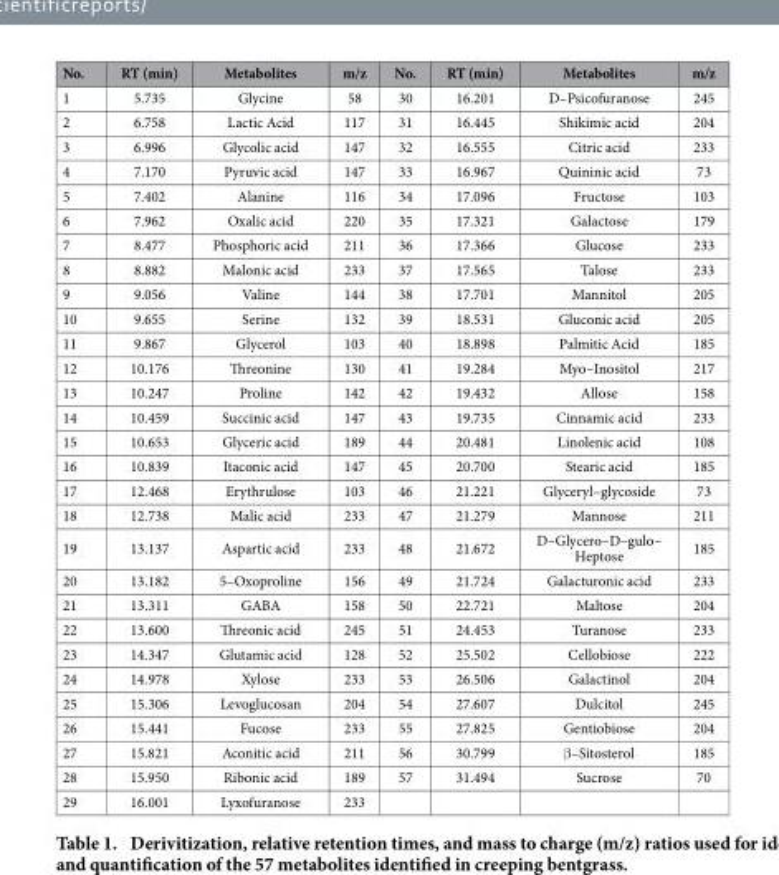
<table><thead><tr><td>No.</td><td>RT (min)</td><td>Metabolites</td><td>m/z</td><td>No.</td><td>RT (min)</td><td>Metabolites</td><td>m/z</td></tr></thead><tbody><tr><td>1</td><td>5.735</td><td>Glycine</td><td>58</td><td>30</td><td>16.201</td><td>D–Psicofuranose</td><td>245</td></tr><tr><td>2</td><td>6.758</td><td>Lactic Acid</td><td>117</td><td>31</td><td>16.445</td><td>Shikimic acid</td><td>204</td></tr><tr><td>3</td><td>6.996</td><td>Glycolic acid</td><td>147</td><td>32</td><td>16.555</td><td>Citric acid</td><td>233</td></tr><tr><td>4</td><td>7.170</td><td>Pyruvic acid</td><td>147</td><td>33</td><td>16.967</td><td>Quininic acid</td><td>73</td></tr><tr><td>5</td><td>7.402</td><td>Alanine</td><td>116</td><td>34</td><td>17.096</td><td>Fructose</td><td>103</td></tr><tr><td>6</td><td>7.962</td><td>Oxalic acid</td><td>220</td><td>35</td><td>17.321</td><td>Galactose</td><td>179</td></tr><tr><td>7</td><td>8.477</td><td>Phosphoric acid</td><td>211</td><td>36</td><td>17.366</td><td>Glucose</td><td>233</td></tr><tr><td>8</td><td>8.882</td><td>Malonic acid</td><td>233</td><td>37</td><td>17.565</td><td>Talose</td><td>233</td></tr><tr><td>9</td><td>9.056</td><td>Valine</td><td>144</td><td>38</td><td>17.701</td><td>Mannitol</td><td>205</td></tr><tr><td>10</td><td>9.655</td><td>Serine</td><td>132</td><td>39</td><td>18.531</td><td>Gluconic acid</td><td>205</td></tr><tr><td>11</td><td>9.867</td><td>Glycerol</td><td>103</td><td>40</td><td>18.898</td><td>Palmitic Acid</td><td>185</td></tr><tr><td>12</td><td>10.176</td><td>Threonine</td><td>130</td><td>41</td><td>19.284</td><td>Myo–Inositol</td><td>217</td></tr><tr><td>13</td><td>10.247</td><td>Proline</td><td>142</td><td>42</td><td>19.432</td><td>Allose</td><td>158</td></tr><tr><td>14</td><td>10.459</td><td>Succinic acid</td><td>147</td><td>43</td><td>19.735</td><td>Cinnamic acid</td><td>233</td></tr><tr><td>15</td><td>10.653</td><td>Glyceric acid</td><td>189</td><td>44</td><td>20.481</td><td>Linolenic acid</td><td>108</td></tr><tr><td>16</td><td>10.839</td><td>Itaconic acid</td><td>147</td><td>45</td><td>20.700</td><td>Stearic acid</td><td>185</td></tr><tr><td>17</td><td>12.468</td><td>Erythrulose</td><td>103</td><td>46</td><td>21.221</td><td>Glyceryl–glycoside</td><td>73</td></tr><tr><td>18</td><td>12.738</td><td>Malic acid</td><td>233</td><td>47</td><td>21.279</td><td>Mannose</td><td>211</td></tr><tr><td>19</td><td>13.137</td><td>Aspartic acid</td><td>233</td><td>48</td><td>21.672</td><td>D–Glycero–D–gulo– Heptose</td><td>185</td></tr><tr><td>20</td><td>13.182</td><td>5–Oxoproline</td><td>156</td><td>49</td><td>21.724</td><td>Galacturonic acid</td><td>233</td></tr><tr><td>21</td><td>13.311</td><td>GABA</td><td>158</td><td>50</td><td>22.721</td><td>Maltose</td><td>204</td></tr><tr><td>22</td><td>13.600</td><td>Threonic acid</td><td>245</td><td>51</td><td>24.453</td><td>Turanose</td><td>233</td></tr><tr><td>23</td><td>14.347</td><td>Glutamic acid</td><td>128</td><td>52</td><td>25.502</td><td>Cellobiose</td><td>222</td></tr><tr><td>24</td><td>14.978</td><td>Xylose</td><td>233</td><td>53</td><td>26.506</td><td>Galactinol</td><td>204</td></tr><tr><td>25</td><td>15.306</td><td>Levoglucosan</td><td>204</td><td>54</td><td>27.607</td><td>Dulcitol</td><td>245</td></tr><tr><td>26</td><td>15.441</td><td>Fucose</td><td>233</td><td>55</td><td>27.825</td><td>Gentiobiose</td><td>204</td></tr><tr><td>27</td><td>15.821</td><td>Aconitic acid</td><td>211</td><td>56</td><td>30.799</td><td>β –Sitosterol</td><td>185</td></tr><tr><td>28</td><td>15.950</td><td>Ribonic acid</td><td>189</td><td>57</td><td>31.494</td><td>Sucrose</td><td>70</td></tr><tr><td>29</td><td>16.001</td><td>Lyxofuranose</td><td>233</td><td></td><td></td><td></td><td></td></tr></tbody></table>